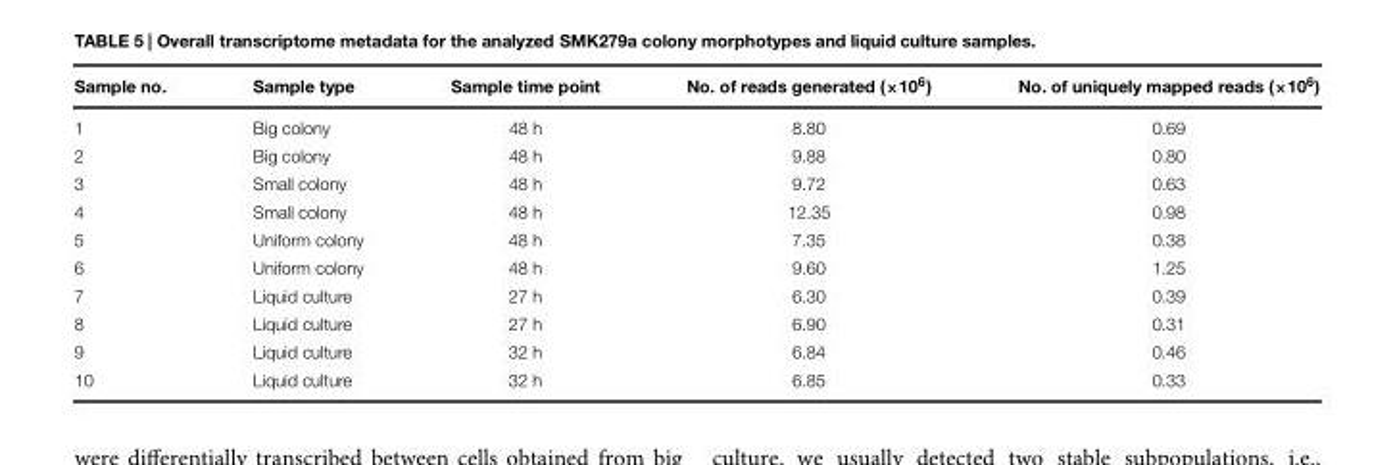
<table><thead><tr><td>Sample no.</td><td>Sample type</td><td>Sample time point</td><td>No. of reads generated (×10<sup>6</sup>)</td><td>No. of uniquely mapped reads (×10<sup>6</sup>)</td></tr></thead><tbody><tr><td>1</td><td>Big colony</td><td>48 h</td><td>8.80</td><td>0.69</td></tr><tr><td>2</td><td>Big colony</td><td>48 h</td><td>9.88</td><td>0.80</td></tr><tr><td>3</td><td>Small colony</td><td>48 h</td><td>9.72</td><td>0.63</td></tr><tr><td>4</td><td>Small colony</td><td>48 h</td><td>12.35</td><td>0.98</td></tr><tr><td>5</td><td>Uniform colony</td><td>48 h</td><td>7.35</td><td>0.38</td></tr><tr><td>6</td><td>Uniform colony</td><td>48 h</td><td>9.60</td><td>1.25</td></tr><tr><td>7</td><td>Liquid culture</td><td>27 h</td><td>6.30</td><td>0.39</td></tr><tr><td>8</td><td>Liquid culture</td><td>27 h</td><td>6.90</td><td>0.31</td></tr><tr><td>9</td><td>Liquid culture</td><td>32 h</td><td>6.84</td><td>0.46</td></tr><tr><td>10</td><td>Liquid culture</td><td>32 h</td><td>6.85</td><td>0.33</td></tr></tbody></table>